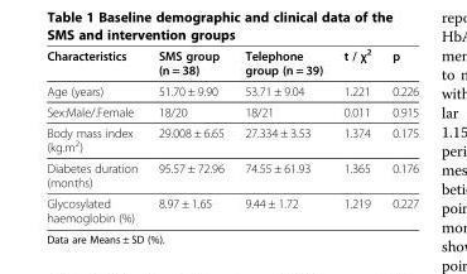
<table><thead><tr><td>Characteristics</td><td>SMS group (n = 38)</td><td>Telephone group (n = 39)</td><td>t / χ2</td><td>p</td></tr></thead><tbody><tr><td>Age (years)</td><td>51.70 ± 9.90</td><td>53.71 ± 9.04</td><td>1.221</td><td>0.226</td></tr><tr><td>Sex:Male/.Female</td><td>18/20</td><td>18/21</td><td>0.011</td><td>0.915</td></tr><tr><td>Body mass index (kg.m2)</td><td>29.008 ± 6.65</td><td>27.334 ± 3.53</td><td>1.374</td><td>0.175</td></tr><tr><td>Diabetes duration (months)</td><td>95.57 ± 72.96</td><td>74.55 ± 61.93</td><td>1.365</td><td>0.176</td></tr><tr><td>Glycosylated haemoglobin (%)</td><td>8.97 ± 1.65</td><td>9.44 ± 1.72</td><td>1.219</td><td>0.227</td></tr></tbody></table>